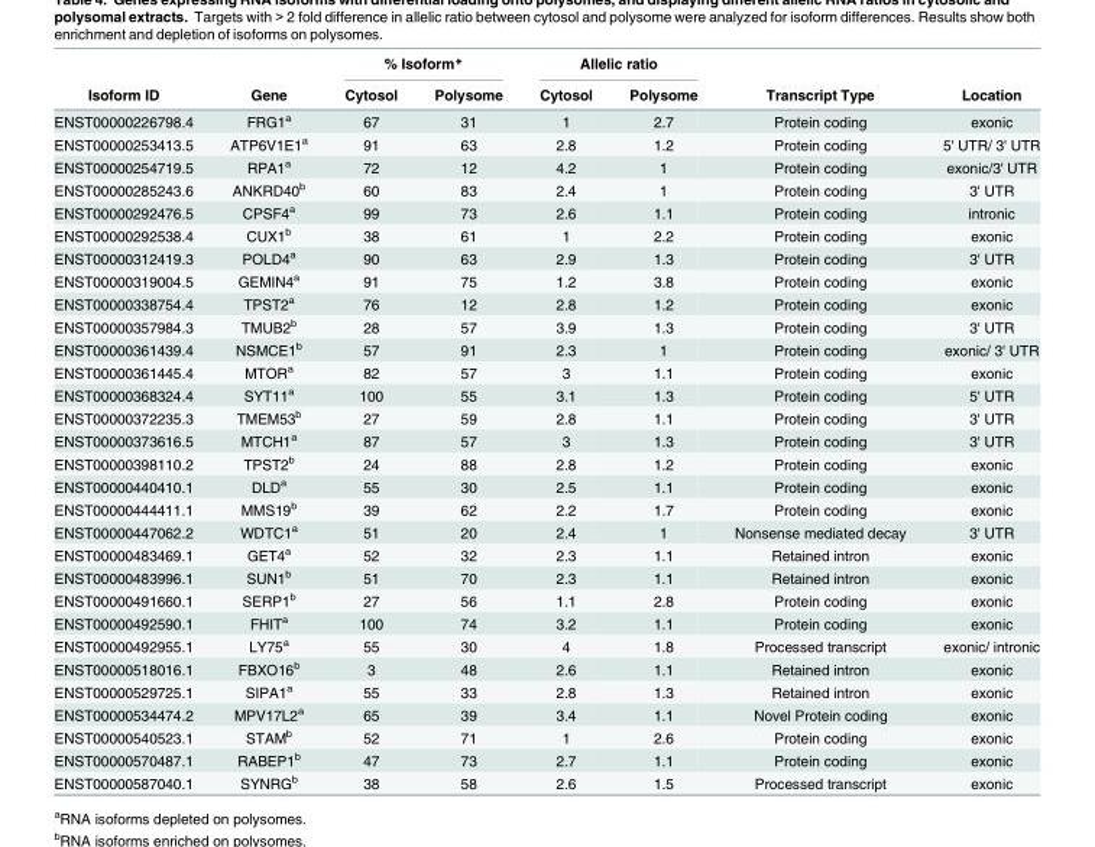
<table><thead><tr><td rowspan="2">Isoform ID</td><td rowspan="2">Gene</td><td colspan="2">% Isoform*</td><td colspan="2">Allelic ratio</td><td rowspan="2">Transcript Type</td><td rowspan="2">Location</td></tr><tr><td>Cytosol</td><td>Polysome</td><td>Cytosol</td><td>Polysome</td></tr></thead><tbody><tr><td>ENST00000226798.4</td><td>FRG1<sup>a</sup></td><td>67</td><td>31</td><td>1</td><td>2.7</td><td>Protein coding</td><td>exonic</td></tr><tr><td>ENST00000253413.5</td><td>ATP6V1E1<sup>a</sup></td><td>91</td><td>63</td><td>2.8</td><td>1.2</td><td>Protein coding</td><td>5&#x27; UTR/ 3&#x27; UTR</td></tr><tr><td>ENST00000254719.5</td><td>RPA1<sup>a</sup></td><td>72</td><td>12</td><td>4.2</td><td>1</td><td>Protein coding</td><td>exonic/3&#x27; UTR</td></tr><tr><td>ENST00000285243.6</td><td>ANKRD40<sup>b</sup></td><td>60</td><td>83</td><td>2.4</td><td>1</td><td>Protein coding</td><td>3&#x27; UTR</td></tr><tr><td>ENST00000292476.5</td><td>CPSF4<sup>a</sup></td><td>99</td><td>73</td><td>2.6</td><td>1.1</td><td>Protein coding</td><td>intronic</td></tr><tr><td>ENST00000292538.4</td><td>CUX1<sup>b</sup></td><td>38</td><td>61</td><td>1</td><td>2.2</td><td>Protein coding</td><td>exonic</td></tr><tr><td>ENST00000312419.3</td><td>POLD4<sup>a</sup></td><td>90</td><td>63</td><td>2.9</td><td>1.3</td><td>Protein coding</td><td>3&#x27; UTR</td></tr><tr><td>ENST00000319004.5</td><td>GEMIN4<sup>a</sup></td><td>91</td><td>75</td><td>1.2</td><td>3.8</td><td>Protein coding</td><td>exonic</td></tr><tr><td>ENST00000338754.4</td><td>TPST2<sup>a</sup></td><td>76</td><td>12</td><td>2.8</td><td>1.2</td><td>Protein coding</td><td>exonic</td></tr><tr><td>ENST00000357984.3</td><td>TMUB2<sup>b</sup></td><td>28</td><td>57</td><td>3.9</td><td>1.3</td><td>Protein coding</td><td>3&#x27; UTR</td></tr><tr><td>ENST00000361439.4</td><td>NSMCE1<sup>b</sup></td><td>57</td><td>91</td><td>2.3</td><td>1</td><td>Protein coding</td><td>exonic/ 3&#x27; UTR</td></tr><tr><td>ENST00000361445.4</td><td>MTOR<sup>a</sup></td><td>82</td><td>57</td><td>3</td><td>1.1</td><td>Protein coding</td><td>exonic</td></tr><tr><td>ENST00000368324.4</td><td>SYT11<sup>a</sup></td><td>100</td><td>55</td><td>3.1</td><td>1.3</td><td>Protein coding</td><td>5&#x27; UTR</td></tr><tr><td>ENST00000372235.3</td><td>TMEM53<sup>b</sup></td><td>27</td><td>59</td><td>2.8</td><td>1.1</td><td>Protein coding</td><td>3&#x27; UTR</td></tr><tr><td>ENST00000373616.5</td><td>MTCH1<sup>a</sup></td><td>87</td><td>57</td><td>3</td><td>1.3</td><td>Protein coding</td><td>3&#x27; UTR</td></tr><tr><td>ENST00000398110.2</td><td>TPST2<sup>b</sup></td><td>24</td><td>88</td><td>2.8</td><td>1.2</td><td>Protein coding</td><td>exonic</td></tr><tr><td>ENST00000440410.1</td><td>DLD<sup>a</sup></td><td>55</td><td>30</td><td>2.5</td><td>1.1</td><td>Protein coding</td><td>exonic</td></tr><tr><td>ENST00000444411.1</td><td>MMS19<sup>b</sup></td><td>39</td><td>62</td><td>2.2</td><td>1.7</td><td>Protein coding</td><td>exonic</td></tr><tr><td>ENST00000447062.2</td><td>WDTC1<sup>a</sup></td><td>51</td><td>20</td><td>2.4</td><td>1</td><td>Nonsense mediated decay</td><td>3&#x27; UTR</td></tr><tr><td>ENST00000483469.1</td><td>GET4<sup>a</sup></td><td>52</td><td>32</td><td>2.3</td><td>1.1</td><td>Retained intron</td><td>exonic</td></tr><tr><td>ENST00000483996.1</td><td>SUN1<sup>b</sup></td><td>51</td><td>70</td><td>2.3</td><td>1.1</td><td>Retained intron</td><td>exonic</td></tr><tr><td>ENST00000491660.1</td><td>SERP1<sup>b</sup></td><td>27</td><td>56</td><td>1.1</td><td>2.8</td><td>Protein coding</td><td>exonic</td></tr><tr><td>ENST00000492590.1</td><td>FHIT<sup>a</sup></td><td>100</td><td>74</td><td>3.2</td><td>1.1</td><td>Protein coding</td><td>exonic</td></tr><tr><td>ENST00000492955.1</td><td>LY75<sup>a</sup></td><td>55</td><td>30</td><td>4</td><td>1.8</td><td>Processed transcript</td><td>exonic/ intronic</td></tr><tr><td>ENST00000518016.1</td><td>FBXO16<sup>b</sup></td><td>3</td><td>48</td><td>2.6</td><td>1.1</td><td>Retained intron</td><td>exonic</td></tr><tr><td>ENST00000529725.1</td><td>SIPA1<sup>a</sup></td><td>55</td><td>33</td><td>2.8</td><td>1.3</td><td>Retained intron</td><td>exonic</td></tr><tr><td>ENST00000534474.2</td><td>MPV17L2<sup>a</sup></td><td>65</td><td>39</td><td>3.4</td><td>1.1</td><td>Novel Protein coding</td><td>exonic</td></tr><tr><td>ENST00000540523.1</td><td>STAM<sup>b</sup></td><td>52</td><td>71</td><td>1</td><td>2.6</td><td>Protein coding</td><td>exonic</td></tr><tr><td>ENST00000570487.1</td><td>RABEP1<sup>b</sup></td><td>47</td><td>73</td><td>2.7</td><td>1.1</td><td>Protein coding</td><td>exonic</td></tr><tr><td>ENST00000587040.1</td><td>SYNRG<sup>b</sup></td><td>38</td><td>58</td><td>2.6</td><td>1.5</td><td>Processed transcript</td><td>exonic</td></tr></tbody></table>